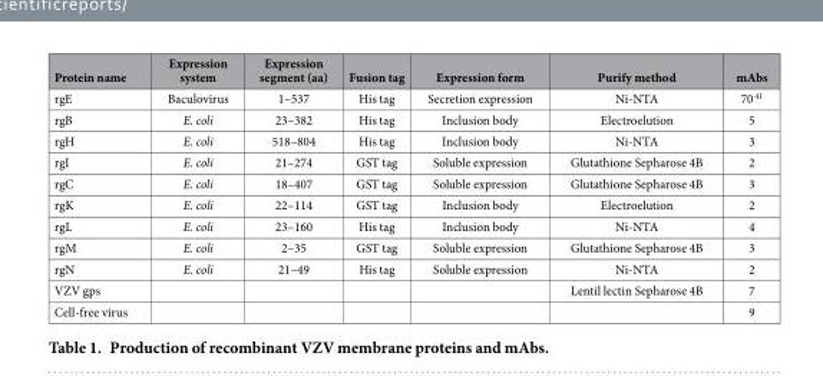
<table><thead><tr><td>Protein name</td><td>Expression system</td><td>Expression segment (aa)</td><td>Fusion tag</td><td>Expression form</td><td>Purify method</td><td>mAbs</td></tr></thead><tbody><tr><td>rgE</td><td>Baculovirus</td><td>1–537</td><td>His tag</td><td>Secretion expression</td><td>Ni-NTA</td><td>70 41</td></tr><tr><td>rgB</td><td>E. coli</td><td>23–382</td><td>His tag</td><td>Inclusion body</td><td>Electroelution</td><td>5</td></tr><tr><td>rgH</td><td>E. coli</td><td>518–804</td><td>His tag</td><td>Inclusion body</td><td>Ni-NTA</td><td>3</td></tr><tr><td>rgI</td><td>E. coli</td><td>21–274</td><td>GST tag</td><td>Soluble expression</td><td>Glutathione Sepharose 4B</td><td>2</td></tr><tr><td>rgC</td><td>E. coli</td><td>18–407</td><td>GST tag</td><td>Soluble expression</td><td>Glutathione Sepharose 4B</td><td>3</td></tr><tr><td>rgK</td><td>E. coli</td><td>22–114</td><td>GST tag</td><td>Inclusion body</td><td>Electroelution</td><td>2</td></tr><tr><td>rgL</td><td>E. coli</td><td>23–160</td><td>His tag</td><td>Inclusion body</td><td>Ni-NTA</td><td>4</td></tr><tr><td>rgM</td><td>E. coli</td><td>2–35</td><td>GST tag</td><td>Soluble expression</td><td>Glutathione Sepharose 4B</td><td>3</td></tr><tr><td>rgN</td><td>E. coli</td><td>21–49</td><td>His tag</td><td>Soluble expression</td><td>Ni-NTA</td><td>2</td></tr><tr><td>VZV gps</td><td></td><td></td><td></td><td></td><td>Lentil lectin Sepharose 4B</td><td>7</td></tr><tr><td>Cell-free virus</td><td></td><td></td><td></td><td></td><td></td><td>9</td></tr></tbody></table>